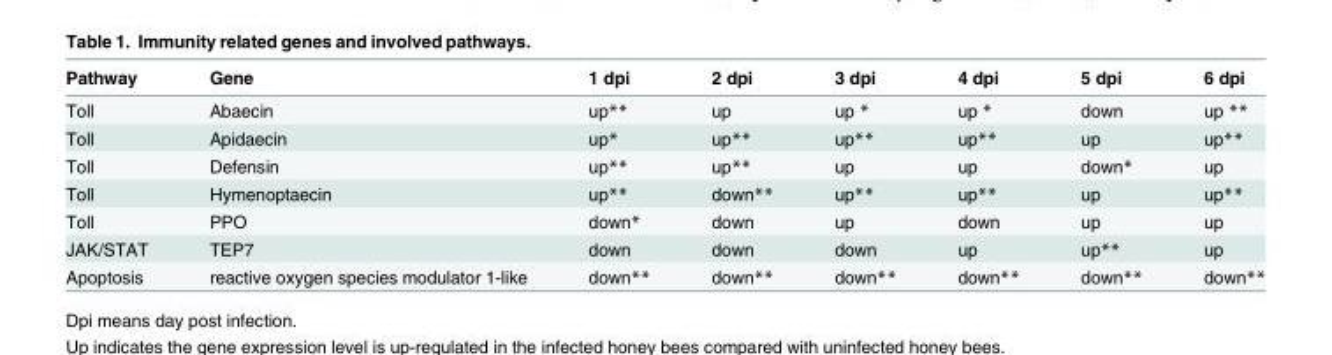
<table><thead><tr><td>Pathway</td><td>Gene</td><td>1 dpi</td><td>2 dpi</td><td>3 dpi</td><td>4 dpi</td><td>5 dpi</td><td>6 dpi</td></tr></thead><tbody><tr><td>Toll</td><td>Abaecin</td><td>up**</td><td>up</td><td>up *</td><td>up *</td><td>down</td><td>up **</td></tr><tr><td>Toll</td><td>Apidaecin</td><td>up*</td><td>up**</td><td>up**</td><td>up**</td><td>up</td><td>up**</td></tr><tr><td>Toll</td><td>Defensin</td><td>up**</td><td>up**</td><td>up</td><td>up</td><td>down*</td><td>up</td></tr><tr><td>Toll</td><td>Hymenoptaecin</td><td>up**</td><td>down**</td><td>up**</td><td>up**</td><td>up</td><td>up**</td></tr><tr><td>Toll</td><td>PPO</td><td>down*</td><td>down</td><td>up</td><td>down</td><td>up</td><td>up</td></tr><tr><td>JAK/STAT</td><td>TEP7</td><td>down</td><td>down</td><td>down</td><td>up</td><td>up**</td><td>up</td></tr><tr><td>Apoptosis</td><td>reactive oxygen species modulator 1-like</td><td>down**</td><td>down**</td><td>down**</td><td>down**</td><td>down**</td><td>down**</td></tr></tbody></table>